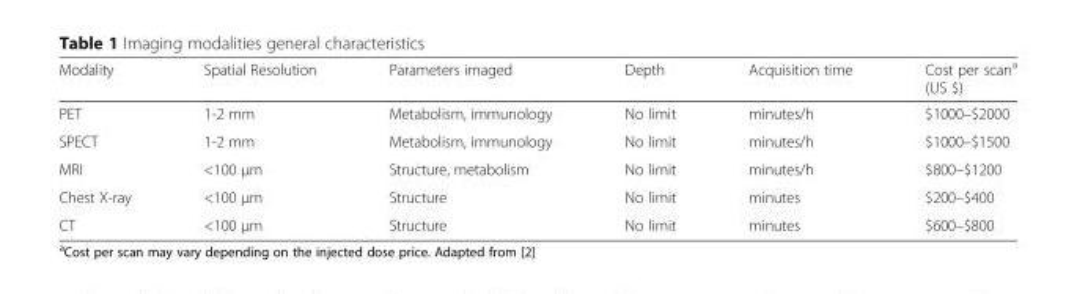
<table><thead><tr><td>Modality</td><td>Spatial Resolution</td><td>Parameters imaged</td><td>Depth</td><td>Acquisition time</td><td>Cost per scan<sup>a</sup> (US $)</td></tr></thead><tbody><tr><td>PET</td><td>1-2 mm</td><td>Metabolism, immunology</td><td>No limit</td><td>minutes/h</td><td>$1000–$2000</td></tr><tr><td>SPECT</td><td>1-2 mm</td><td>Metabolism, immunology</td><td>No limit</td><td>minutes/h</td><td>$1000–$1500</td></tr><tr><td>MRI</td><td>&lt;100 μm</td><td>Structure, metabolism</td><td>No limit</td><td>minutes/h</td><td>$800–$1200</td></tr><tr><td>Chest X-ray</td><td>&lt;100 μm</td><td>Structure</td><td>No limit</td><td>minutes</td><td>$200–$400</td></tr><tr><td>CT</td><td>&lt;100 μm</td><td>Structure</td><td>No limit</td><td>minutes</td><td>$600–$800</td></tr></tbody></table>